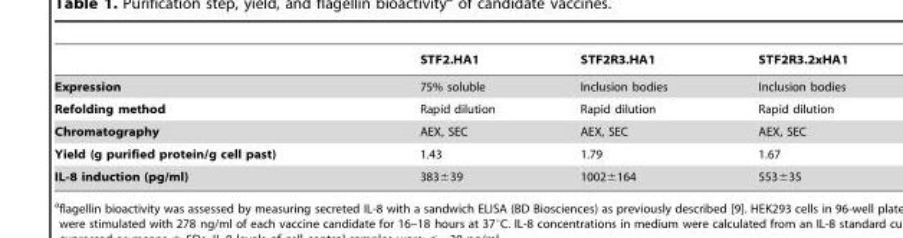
<table><thead><tr><td></td><td>STF2.HA1</td><td>STF2R3.HA1</td><td>STF2R3.2xHA1</td></tr></thead><tbody><tr><td>Expression</td><td>75% soluble</td><td>Inclusion bodies</td><td>Inclusion bodies</td></tr><tr><td>Refolding method</td><td>Rapid dilution</td><td>Rapid dilution</td><td>Rapid dilution</td></tr><tr><td>Chromatography</td><td>AEX, SEC</td><td>AEX, SEC</td><td>AEX, SEC</td></tr><tr><td>Yield (g purified protein/g cell past)</td><td>1.43</td><td>1.79</td><td>1.67</td></tr><tr><td>IL-8 induction (pg/ml)</td><td>383±39</td><td>1002±164</td><td>553±35</td></tr></tbody></table>